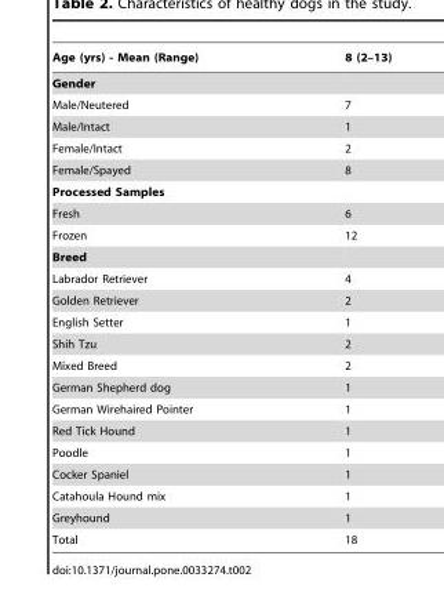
<table><thead><tr><td>Age (yrs) - Mean (Range)</td><td>8 (2–13)</td></tr></thead><tbody><tr><td colspan="2">Gender</td></tr><tr><td>Male/Neutered</td><td>7</td></tr><tr><td>Male/Intact</td><td>1</td></tr><tr><td>Female/Intact</td><td>2</td></tr><tr><td>Female/Spayed</td><td>8</td></tr><tr><td colspan="2">Processed Samples</td></tr><tr><td>Fresh</td><td>6</td></tr><tr><td>Frozen</td><td>12</td></tr><tr><td colspan="2">Breed</td></tr><tr><td>Labrador Retriever</td><td>4</td></tr><tr><td>Golden Retriever</td><td>2</td></tr><tr><td>English Setter</td><td>1</td></tr><tr><td>Shih Tzu</td><td>2</td></tr><tr><td>Mixed Breed</td><td>2</td></tr><tr><td>German Shepherd dog</td><td>1</td></tr><tr><td>German Wirehaired Pointer</td><td>1</td></tr><tr><td>Red Tick Hound</td><td>1</td></tr><tr><td>Poodle</td><td>1</td></tr><tr><td>Cocker Spaniel</td><td>1</td></tr><tr><td>Catahoula Hound mix</td><td>1</td></tr><tr><td>Greyhound</td><td>1</td></tr><tr><td>Total</td><td>18</td></tr></tbody></table>